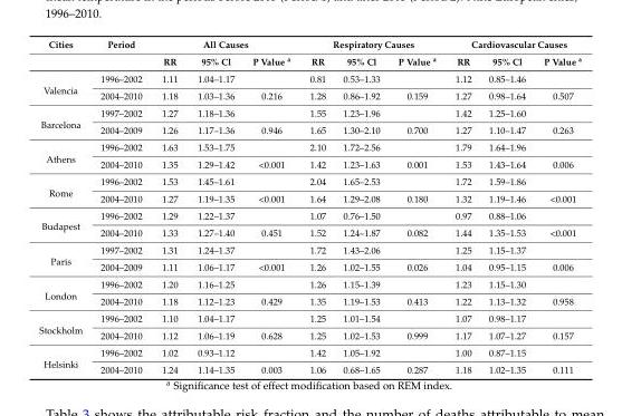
<table><thead><tr><td rowspan="2">Cities</td><td rowspan="2">Period</td><td colspan="3">All Causes</td><td colspan="3">Respiratory Causes</td><td colspan="3">Cardiovascular Causes</td></tr><tr><td>RR</td><td>95% Cl</td><td>P Value <sup>a</sup></td><td>RR</td><td>95% Cl</td><td>P Value <sup>a</sup></td><td>RR</td><td>95% Cl</td><td>P Value <sup>a</sup></td></tr></thead><tbody><tr><td rowspan="2">Valencia</td><td>1996–2002</td><td>1.11</td><td>1.04–1.17</td><td></td><td>0.81</td><td>0.53–1.33</td><td></td><td>1.12</td><td>0.85–1.46</td><td></td></tr><tr><td>2004–2010</td><td>1.18</td><td>1.03–1.36</td><td>0.216</td><td>1.28</td><td>0.86–1.92</td><td>0.159</td><td>1.27</td><td>0.98–1.64</td><td>0.507</td></tr><tr><td rowspan="2">Barcelona</td><td>1997–2002</td><td>1.27</td><td>1.18–1.36</td><td></td><td>1.55</td><td>1.23–1.96</td><td></td><td>1.42</td><td>1.25–1.60</td><td></td></tr><tr><td>2004–2009</td><td>1.26</td><td>1.17–1.36</td><td>0.946</td><td>1.65</td><td>1.30–2.10</td><td>0.700</td><td>1.27</td><td>1.10–1.47</td><td>0.263</td></tr><tr><td rowspan="2">Athens</td><td>1996–2002</td><td>1.63</td><td>1.53–1.75</td><td></td><td>2.10</td><td>1.72–2.56</td><td></td><td>1.79</td><td>1.64–1.96</td><td></td></tr><tr><td>2004–2010</td><td>1.35</td><td>1.29–1.42</td><td>&lt;0.001</td><td>1.42</td><td>1.23–1.63</td><td>0.001</td><td>1.53</td><td>1.43–1.64</td><td>0.006</td></tr><tr><td rowspan="2">Rome</td><td>1996–2002</td><td>1.53</td><td>1.45–1.61</td><td></td><td>2.04</td><td>1.65–2.53</td><td></td><td>1.72</td><td>1.59–1.86</td><td></td></tr><tr><td>2004–2010</td><td>1.27</td><td>1.19–1.35</td><td>&lt;0.001</td><td>1.64</td><td>1.29–2.08</td><td>0.180</td><td>1.32</td><td>1.19–1.46</td><td>&lt;0.001</td></tr><tr><td rowspan="2">Budapest</td><td>1996–2002</td><td>1.29</td><td>1.22–1.37</td><td></td><td>1.07</td><td>0.76–1.50</td><td></td><td>0.97</td><td>0.88–1.06</td><td></td></tr><tr><td>2004–2010</td><td>1.33</td><td>1.27–1.40</td><td>0.451</td><td>1.52</td><td>1.24–1.87</td><td>0.082</td><td>1.44</td><td>1.35–1.53</td><td>&lt;0.001</td></tr><tr><td rowspan="2">Paris</td><td>1997–2002</td><td>1.31</td><td>1.24–1.37</td><td></td><td>1.72</td><td>1.43–2.06</td><td></td><td>1.25</td><td>1.15–1.37</td><td></td></tr><tr><td>2004–2009</td><td>1.11</td><td>1.06–1.17</td><td>&lt;0.001</td><td>1.26</td><td>1.02–1.55</td><td>0.026</td><td>1.04</td><td>0.95–1.15</td><td>0.006</td></tr><tr><td rowspan="2">London</td><td>1996–2002</td><td>1.20</td><td>1.16–1.25</td><td></td><td>1.26</td><td>1.15–1.39</td><td></td><td>1.23</td><td>1.15–1.30</td><td></td></tr><tr><td>2004–2010</td><td>1.18</td><td>1.12–1.23</td><td>0.429</td><td>1.35</td><td>1.19–1.53</td><td>0.413</td><td>1.22</td><td>1.13–1.32</td><td>0.958</td></tr><tr><td rowspan="2">Stockholm</td><td>1996–2002</td><td>1.10</td><td>1.04–1.17</td><td></td><td>1.25</td><td>1.01–1.54</td><td></td><td>1.07</td><td>0.98–1.17</td><td></td></tr><tr><td>2004–2010</td><td>1.12</td><td>1.06–1.19</td><td>0.628</td><td>1.25</td><td>1.02–1.53</td><td>0.999</td><td>1.17</td><td>1.07–1.27</td><td>0.157</td></tr><tr><td rowspan="2">Helsinki</td><td>1996–2002</td><td>1.02</td><td>0.93–1.12</td><td></td><td>1.42</td><td>1.05–1.92</td><td></td><td>1.00</td><td>0.87–1.15</td><td></td></tr><tr><td>2004–2010</td><td>1.24</td><td>1.14–1.35</td><td>0.003</td><td>1.06</td><td>0.68–1.65</td><td>0.287</td><td>1.18</td><td>1.02–1.35</td><td>0.111</td></tr></tbody></table>